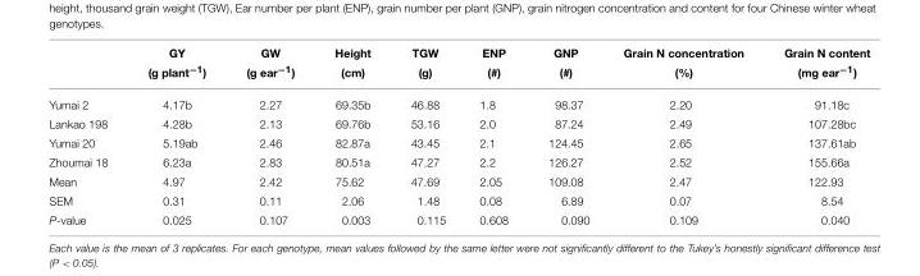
<table><thead><tr><td rowspan="2"></td><td rowspan="2">GY (g plant<sup>−1</sup>)</td><td rowspan="2">GW (g ear<sup>−1</sup>)</td><td rowspan="2">Height (cm)</td><td rowspan="2">TGW (g)</td><td rowspan="2">ENP (#)</td><td rowspan="2">GNP (#)</td><td rowspan="2">Grain N concentration (%)</td><td rowspan="2">Grain N content (mg ear<sup>−1</sup>)</td></tr><tr></tr></thead><tbody><tr><td>Yumai 2</td><td>4.17b</td><td>2.27</td><td>69.35b</td><td>46.88</td><td>1.8</td><td>98.37</td><td>2.20</td><td>91.18c</td></tr><tr><td>Lankao 198</td><td>4.28b</td><td>2.13</td><td>69.76b</td><td>53.16</td><td>2.0</td><td>87.24</td><td>2.49</td><td>107.28bc</td></tr><tr><td>Yumai 20</td><td>5.19ab</td><td>2.46</td><td>82.87a</td><td>43.45</td><td>2.1</td><td>124.45</td><td>2.65</td><td>137.61ab</td></tr><tr><td>Zhoumai 18</td><td>6.23a</td><td>2.83</td><td>80.51a</td><td>47.27</td><td>2.2</td><td>126.27</td><td>2.52</td><td>155.66a</td></tr><tr><td>Mean</td><td>4.97</td><td>2.42</td><td>75.62</td><td>47.69</td><td>2.05</td><td>109.08</td><td>2.47</td><td>122.93</td></tr><tr><td>SEM</td><td>0.31</td><td>0.11</td><td>2.06</td><td>1.48</td><td>0.08</td><td>6.89</td><td>0.07</td><td>8.54</td></tr><tr><td>P-value</td><td>0.025</td><td>0.107</td><td>0.003</td><td>0.115</td><td>0.608</td><td>0.090</td><td>0.109</td><td>0.040</td></tr></tbody></table>